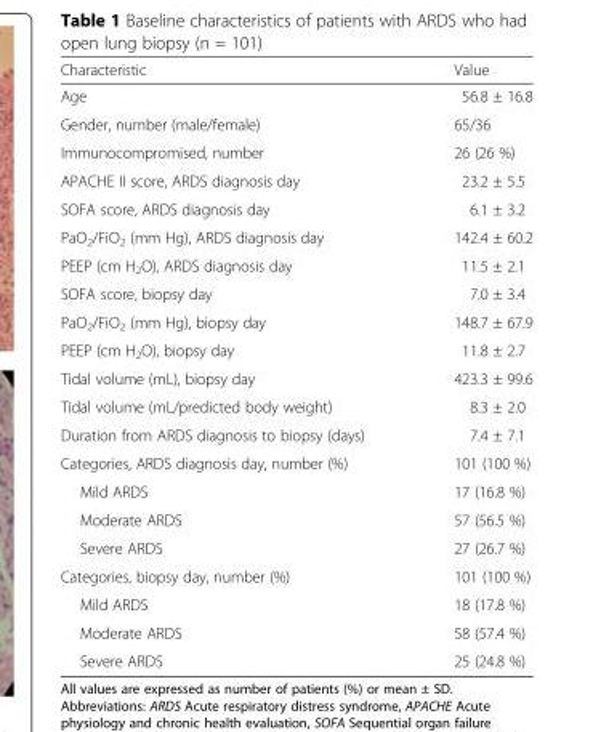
<table><thead><tr><td>Characteristic</td><td>Value</td></tr></thead><tbody><tr><td>Age</td><td>56.8 ± 16.8</td></tr><tr><td>Gender, number (male/female)</td><td>65/36</td></tr><tr><td>Immunocompromised, number</td><td>26 (26 %)</td></tr><tr><td>APACHE II score, ARDS diagnosis day</td><td>23.2 ± 5.5</td></tr><tr><td>SOFA score, ARDS diagnosis day</td><td>6.1 ± 3.2</td></tr><tr><td>PaO<sub>2</sub>/FiO<sub>2</sub> (mm Hg), ARDS diagnosis day</td><td>142.4 ± 60.2</td></tr><tr><td>PEEP (cm H<sub>2</sub>O), ARDS diagnosis day</td><td>11.5 ± 2.1</td></tr><tr><td>SOFA score, biopsy day</td><td>7.0 ± 3.4</td></tr><tr><td>PaO<sub>2</sub>/FiO<sub>2</sub> (mm Hg), biopsy day</td><td>148.7 ± 67.9</td></tr><tr><td>PEEP (cm H<sub>2</sub>O), biopsy day</td><td>11.8 ± 2.7</td></tr><tr><td>Tidal volume (mL), biopsy day</td><td>423.3 ± 99.6</td></tr><tr><td>Tidal volume (mL/predicted body weight)</td><td>8.3 ± 2.0</td></tr><tr><td>Duration from ARDS diagnosis to biopsy (days)</td><td>7.4 ± 7.1</td></tr><tr><td>Categories, ARDS diagnosis day, number (%)</td><td>101 (100 %)</td></tr><tr><td>Mild ARDS</td><td>17 (16.8 %)</td></tr><tr><td>Moderate ARDS</td><td>57 (56.5 %)</td></tr><tr><td>Severe ARDS</td><td>27 (26.7 %)</td></tr><tr><td>Categories, biopsy day, number (%)</td><td>101 (100 %)</td></tr><tr><td>Mild ARDS</td><td>18 (17.8 %)</td></tr><tr><td>Moderate ARDS</td><td>58 (57.4 %)</td></tr><tr><td>Severe ARDS</td><td>25 (24.8 %)</td></tr></tbody></table>